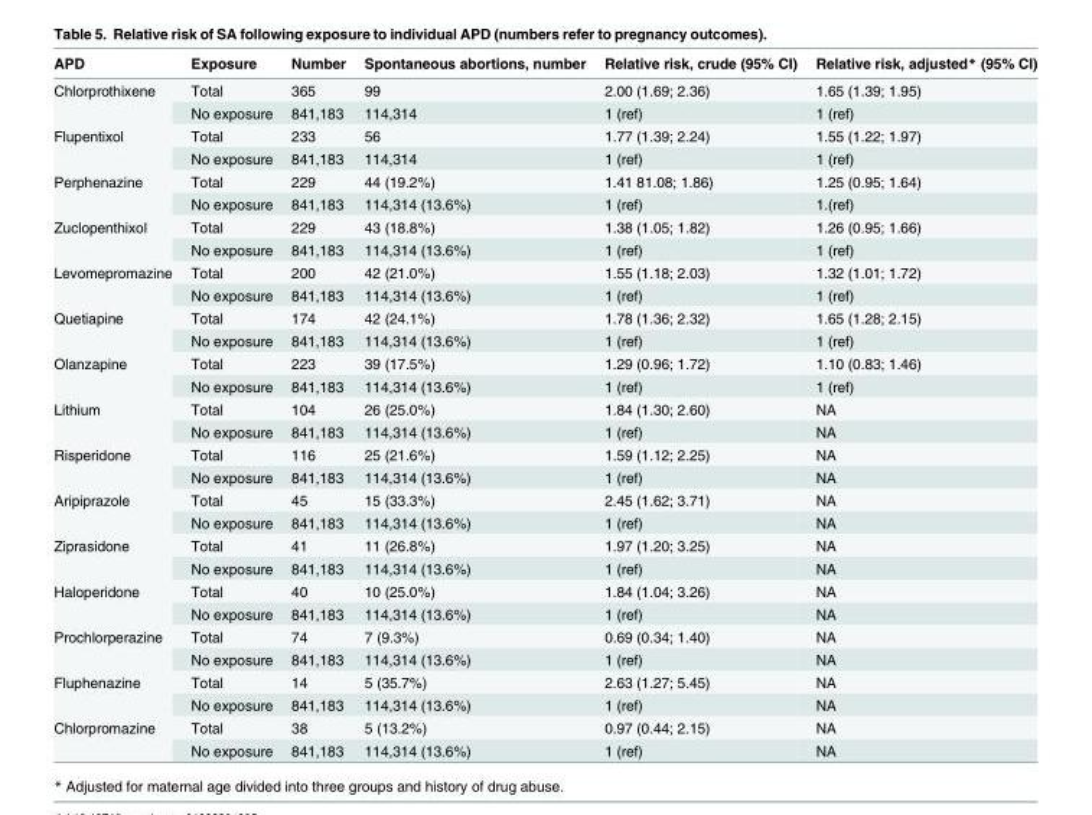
<table><thead><tr><td>APD</td><td>Exposure</td><td>Number</td><td>Spontaneous abortions, number</td><td>Relative risk, crude (95% CI)</td><td>Relative risk, adjusted* (95% CI)</td></tr></thead><tbody><tr><td rowspan="2">Chlorprothixene</td><td>Total</td><td>365</td><td>99</td><td>2.00 (1.69; 2.36)</td><td>1.65 (1.39; 1.95)</td></tr><tr><td>No exposure</td><td>841,183</td><td>114,314</td><td>1 (ref)</td><td>1 (ref)</td></tr><tr><td rowspan="2">Flupentixol</td><td>Total</td><td>233</td><td>56</td><td>1.77 (1.39; 2.24)</td><td>1.55 (1.22; 1.97)</td></tr><tr><td>No exposure</td><td>841,183</td><td>114,314</td><td>1 (ref)</td><td>1 (ref)</td></tr><tr><td rowspan="2">Perphenazine</td><td>Total</td><td>229</td><td>44 (19.2%)</td><td>1.41 81.08; 1.86)</td><td>1.25 (0.95; 1.64)</td></tr><tr><td>No exposure</td><td>841,183</td><td>114,314 (13.6%)</td><td>1 (ref)</td><td>1.(ref)</td></tr><tr><td rowspan="2">Zuclopenthixol</td><td>Total</td><td>229</td><td>43 (18.8%)</td><td>1.38 (1.05; 1.82)</td><td>1.26 (0.95; 1.66)</td></tr><tr><td>No exposure</td><td>841,183</td><td>114,314 (13.6%)</td><td>1 (ref)</td><td>1 (ref)</td></tr><tr><td rowspan="2">Levomepromazine</td><td>Total</td><td>200</td><td>42 (21.0%)</td><td>1.55 (1.18; 2.03)</td><td>1.32 (1.01; 1.72)</td></tr><tr><td>No exposure</td><td>841,183</td><td>114,314 (13.6%)</td><td>1 (ref)</td><td>1 (ref)</td></tr><tr><td rowspan="2">Quetiapine</td><td>Total</td><td>174</td><td>42 (24.1%)</td><td>1.78 (1.36; 2.32)</td><td>1.65 (1.28; 2.15)</td></tr><tr><td>No exposure</td><td>841,183</td><td>114,314 (13.6%)</td><td>1 (ref)</td><td>1 (ref)</td></tr><tr><td rowspan="2">Olanzapine</td><td>Total</td><td>223</td><td>39 (17.5%)</td><td>1.29 (0.96; 1.72)</td><td>1.10 (0.83; 1.46)</td></tr><tr><td>No exposure</td><td>841,183</td><td>114,314 (13.6%)</td><td>1 (ref)</td><td>1 (ref)</td></tr><tr><td rowspan="2">Lithium</td><td>Total</td><td>104</td><td>26 (25.0%)</td><td>1.84 (1.30; 2.60)</td><td>NA</td></tr><tr><td>No exposure</td><td>841,183</td><td>114,314 (13.6%)</td><td>1 (ref)</td><td>NA</td></tr><tr><td rowspan="2">Risperidone</td><td>Total</td><td>116</td><td>25 (21.6%)</td><td>1.59 (1.12; 2.25)</td><td>NA</td></tr><tr><td>No exposure</td><td>841,183</td><td>114,314 (13.6%)</td><td>1 (ref)</td><td>NA</td></tr><tr><td rowspan="2">Aripiprazole</td><td>Total</td><td>45</td><td>15 (33.3%)</td><td>2.45 (1.62; 3.71)</td><td>NA</td></tr><tr><td>No exposure</td><td>841,183</td><td>114,314 (13.6%)</td><td>1 (ref)</td><td>NA</td></tr><tr><td rowspan="2">Ziprasidone</td><td>Total</td><td>41</td><td>11 (26.8%)</td><td>1.97 (1.20; 3.25)</td><td>NA</td></tr><tr><td>No exposure</td><td>841,183</td><td>114,314 (13.6%)</td><td>1 (ref)</td><td>NA</td></tr><tr><td rowspan="2">Haloperidone</td><td>Total</td><td>40</td><td>10 (25.0%)</td><td>1.84 (1.04; 3.26)</td><td>NA</td></tr><tr><td>No exposure</td><td>841,183</td><td>114,314 (13.6%)</td><td>1 (ref)</td><td>NA</td></tr><tr><td rowspan="2">Prochlorperazine</td><td>Total</td><td>74</td><td>7 (9.3%)</td><td>0.69 (0.34; 1.40)</td><td>NA</td></tr><tr><td>No exposure</td><td>841,183</td><td>114,314 (13.6%)</td><td>1 (ref)</td><td>NA</td></tr><tr><td rowspan="2">Fluphenazine</td><td>Total</td><td>14</td><td>5 (35.7%)</td><td>2.63 (1.27; 5.45)</td><td>NA</td></tr><tr><td>No exposure</td><td>841,183</td><td>114,314 (13.6%)</td><td>1 (ref)</td><td>NA</td></tr><tr><td rowspan="2">Chlorpromazine</td><td>Total</td><td>38</td><td>5 (13.2%)</td><td>0.97 (0.44; 2.15)</td><td>NA</td></tr><tr><td>No exposure</td><td>841,183</td><td>114,314 (13.6%)</td><td>1 (ref)</td><td>NA</td></tr></tbody></table>